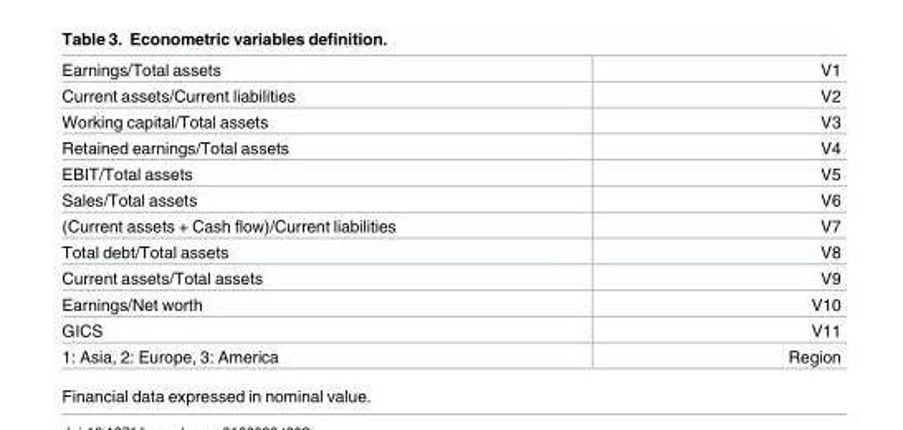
<table><tbody><tr><td>Earnings/Total assets</td><td>V1</td></tr><tr><td>Current assets/Current liabilities</td><td>V2</td></tr><tr><td>Working capital/Total assets</td><td>V3</td></tr><tr><td>Retained earnings/Total assets</td><td>V4</td></tr><tr><td>EBIT/Total assets</td><td>V5</td></tr><tr><td>Sales/Total assets</td><td>V6</td></tr><tr><td>(Current assets + Cash flow)/Current liabilities</td><td>V7</td></tr><tr><td>Total debt/Total assets</td><td>V8</td></tr><tr><td>Current assets/Total assets</td><td>V9</td></tr><tr><td>Earnings/Net worth</td><td>V10</td></tr><tr><td>GICS</td><td>V11</td></tr><tr><td>1: Asia, 2: Europe, 3: America</td><td>Region</td></tr></tbody></table>